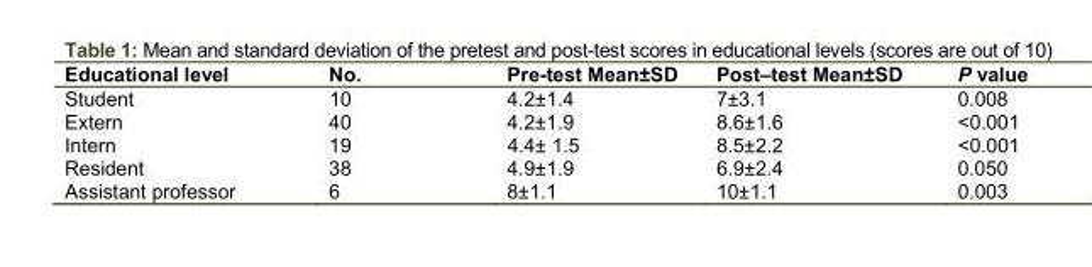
<table><thead><tr><td>Educational level</td><td>No.</td><td>Pre-test Mean±SD</td><td>Post–test Mean±SD</td><td>P value</td></tr></thead><tbody><tr><td>Student</td><td>10</td><td>4.2±1.4</td><td>7±3.1</td><td>0.008</td></tr><tr><td>Extern</td><td>40</td><td>4.2±1.9</td><td>8.6±1.6</td><td>&lt;0.001</td></tr><tr><td>Intern</td><td>19</td><td>4.4± 1.5</td><td>8.5±2.2</td><td>&lt;0.001</td></tr><tr><td>Resident</td><td>38</td><td>4.9±1.9</td><td>6.9±2.4</td><td>0.050</td></tr><tr><td>Assistant professor</td><td>6</td><td>8±1.1</td><td>10±1.1</td><td>0.003</td></tr></tbody></table>